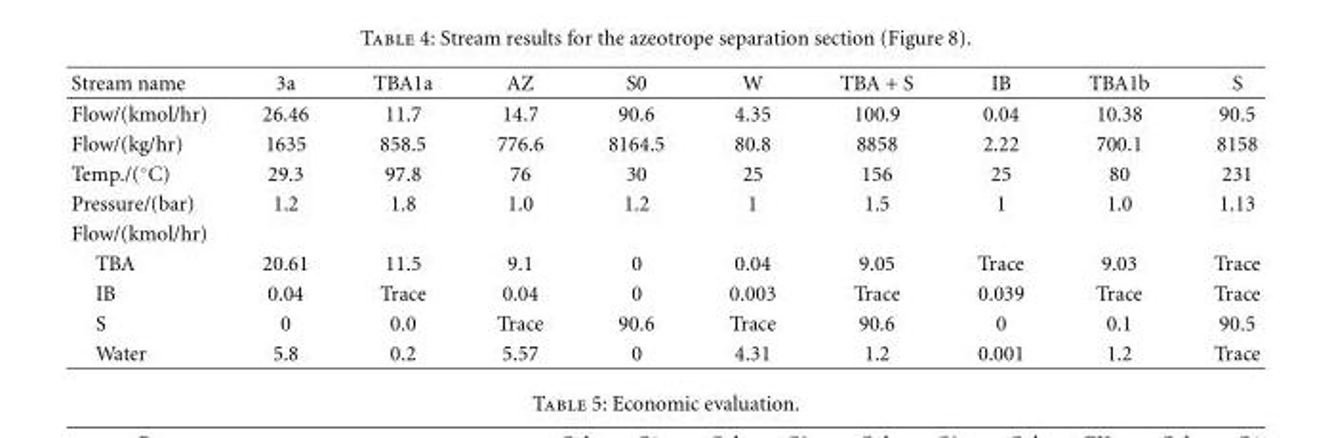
<table><thead><tr><td>Stream name</td><td>3a</td><td>TBA1a</td><td>AZ</td><td>S0</td><td>W</td><td>TBA + S</td><td>IB</td><td>TBA1b</td><td>S</td></tr></thead><tbody><tr><td>Flow/(kmol/hr)</td><td>26.46</td><td>11.7</td><td>14.7</td><td>90.6</td><td>4.35</td><td>100.9</td><td>0.04</td><td>10.38</td><td>90.5</td></tr><tr><td>Flow/(kg/hr)</td><td>1635</td><td>858.5</td><td>776.6</td><td>8164.5</td><td>80.8</td><td>8858</td><td>2.22</td><td>700.1</td><td>8158</td></tr><tr><td>Temp./(◦C)</td><td>29.3</td><td>97.8</td><td>76</td><td>30</td><td>25</td><td>156</td><td>25</td><td>80</td><td>231</td></tr><tr><td>Pressure/(bar)</td><td>1.2</td><td>1.8</td><td>1.0</td><td>1.2</td><td>1</td><td>1.5</td><td>1</td><td>1.0</td><td>1.13</td></tr><tr><td colspan="10">Flow/(kmol/hr)</td></tr><tr><td>TBA</td><td>20.61</td><td>11.5</td><td>9.1</td><td>0</td><td>0.04</td><td>9.05</td><td>Trace</td><td>9.03</td><td>Trace</td></tr><tr><td>IB</td><td>0.04</td><td>Trace</td><td>0.04</td><td>0</td><td>0.003</td><td>Trace</td><td>0.039</td><td>Trace</td><td>Trace</td></tr><tr><td>S</td><td>0</td><td>0.0</td><td>Trace</td><td>90.6</td><td>Trace</td><td>90.6</td><td>0</td><td>0.1</td><td>90.5</td></tr><tr><td>Water</td><td>5.8</td><td>0.2</td><td>5.57</td><td>0</td><td>4.31</td><td>1.2</td><td>0.001</td><td>1.2</td><td>Trace</td></tr></tbody></table>